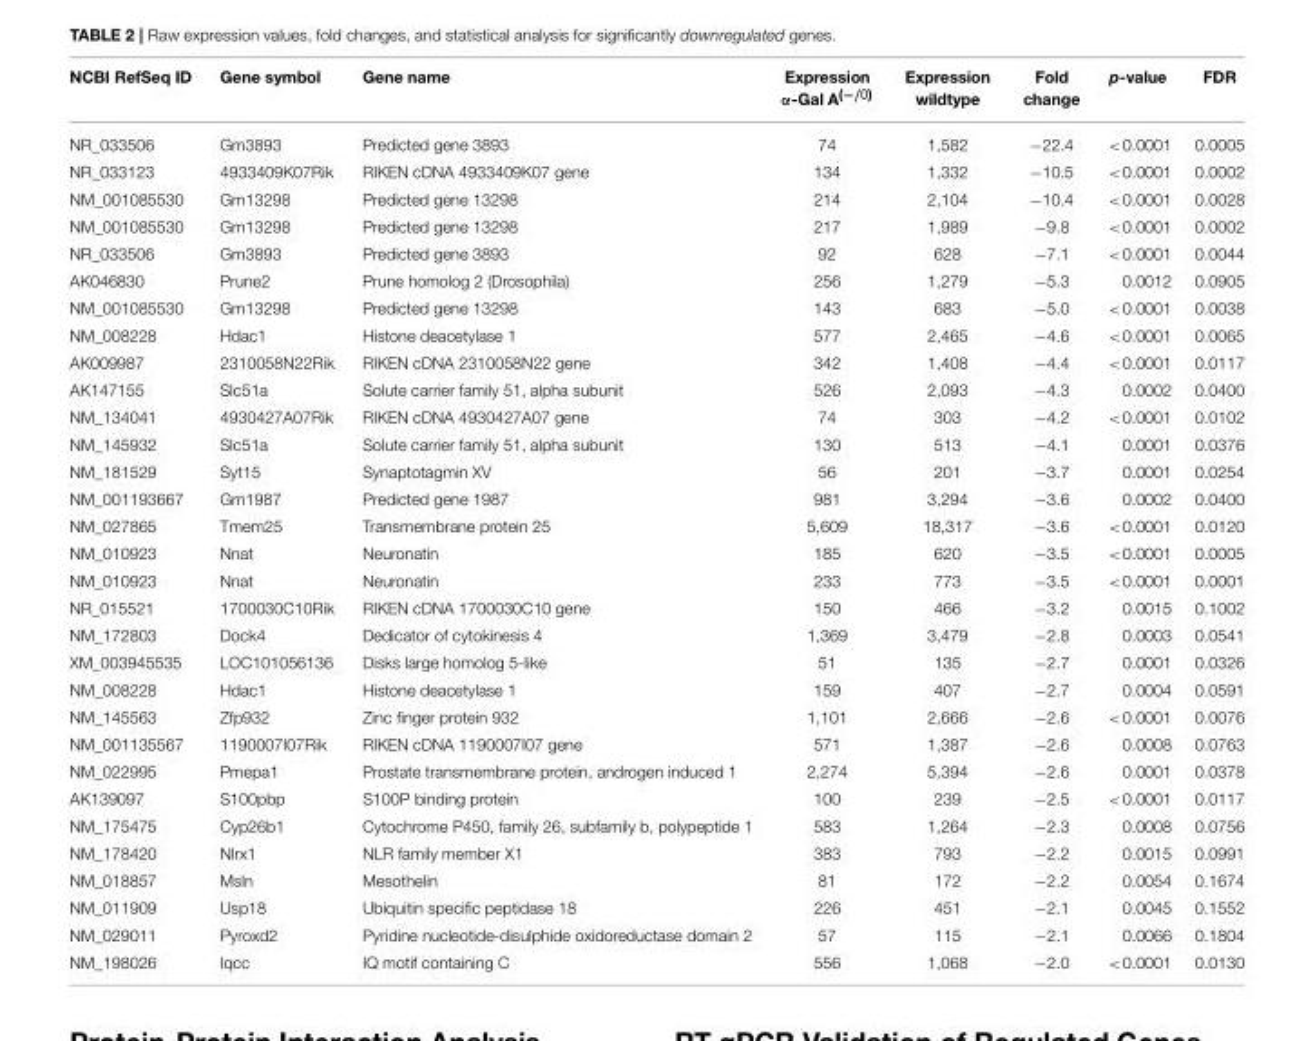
<table><thead><tr><td>NCBI RefSeq ID</td><td>Gene symbol</td><td>Gene name</td><td>Expression α-Gal A<sup>(−/0)</sup></td><td>Expression wildtype</td><td>Fold change</td><td>p-value</td><td>FDR</td></tr></thead><tbody><tr><td>NR_033506</td><td>Gm3893</td><td>Predicted gene 3893</td><td>74</td><td>1,582</td><td>−22.4</td><td>&lt;0.0001</td><td>0.0005</td></tr><tr><td>NR_033123</td><td>4933409K07Rik</td><td>RIKEN cDNA 4933409K07 gene</td><td>134</td><td>1,332</td><td>−10.5</td><td>&lt;0.0001</td><td>0.0002</td></tr><tr><td>NM_001085530</td><td>Gm13298</td><td>Predicted gene 13298</td><td>214</td><td>2,104</td><td>−10.4</td><td>&lt;0.0001</td><td>0.0028</td></tr><tr><td>NM_001085530</td><td>Gm13298</td><td>Predicted gene 13298</td><td>217</td><td>1,989</td><td>−9.8</td><td>&lt;0.0001</td><td>0.0002</td></tr><tr><td>NR_033506</td><td>Gm3893</td><td>Predicted gene 3893</td><td>92</td><td>628</td><td>−7.1</td><td>&lt;0.0001</td><td>0.0044</td></tr><tr><td>AK046830</td><td>Prune2</td><td>Prune homolog 2 (Drosophila)</td><td>256</td><td>1,279</td><td>−5.3</td><td>0.0012</td><td>0.0905</td></tr><tr><td>NM_001085530</td><td>Gm13298</td><td>Predicted gene 13298</td><td>143</td><td>683</td><td>−5.0</td><td>&lt;0.0001</td><td>0.0038</td></tr><tr><td>NM_008228</td><td>Hdac1</td><td>Histone deacetylase 1</td><td>577</td><td>2,465</td><td>−4.6</td><td>&lt;0.0001</td><td>0.0065</td></tr><tr><td>AK009987</td><td>2310058N22Rik</td><td>RIKEN cDNA 2310058N22 gene</td><td>342</td><td>1,408</td><td>−4.4</td><td>&lt;0.0001</td><td>0.0117</td></tr><tr><td>AK147155</td><td>Slc51a</td><td>Solute carrier family 51, alpha subunit</td><td>526</td><td>2,093</td><td>−4.3</td><td>0.0002</td><td>0.0400</td></tr><tr><td>NM_134041</td><td>4930427A07Rik</td><td>RIKEN cDNA 4930427A07 gene</td><td>74</td><td>303</td><td>−4.2</td><td>&lt;0.0001</td><td>0.0102</td></tr><tr><td>NM_145932</td><td>Slc51a</td><td>Solute carrier family 51, alpha subunit</td><td>130</td><td>513</td><td>−4.1</td><td>0.0001</td><td>0.0376</td></tr><tr><td>NM_181529</td><td>Syt15</td><td>Synaptotagmin XV</td><td>56</td><td>201</td><td>−3.7</td><td>0.0001</td><td>0.0254</td></tr><tr><td>NM_001193667</td><td>Gm1987</td><td>Predicted gene 1987</td><td>981</td><td>3,294</td><td>−3.6</td><td>0.0002</td><td>0.0400</td></tr><tr><td>NM_027865</td><td>Tmem25</td><td>Transmembrane protein 25</td><td>5,609</td><td>18,317</td><td>−3.6</td><td>&lt;0.0001</td><td>0.0120</td></tr><tr><td>NM_010923</td><td>Nnat</td><td>Neuronatin</td><td>185</td><td>620</td><td>−3.5</td><td>&lt;0.0001</td><td>0.0005</td></tr><tr><td>NM_010923</td><td>Nnat</td><td>Neuronatin</td><td>233</td><td>773</td><td>−3.5</td><td>&lt;0.0001</td><td>0.0001</td></tr><tr><td>NR_015521</td><td>1700030C10Rik</td><td>RIKEN cDNA 1700030C10 gene</td><td>150</td><td>466</td><td>−3.2</td><td>0.0015</td><td>0.1002</td></tr><tr><td>NM_172803</td><td>Dock4</td><td>Dedicator of cytokinesis 4</td><td>1,369</td><td>3,479</td><td>−2.8</td><td>0.0003</td><td>0.0541</td></tr><tr><td>XM_003945535</td><td>LOC101056136</td><td>Disks large homolog 5-like</td><td>51</td><td>135</td><td>−2.7</td><td>0.0001</td><td>0.0326</td></tr><tr><td>NM_008228</td><td>Hdac1</td><td>Histone deacetylase 1</td><td>159</td><td>407</td><td>−2.7</td><td>0.0004</td><td>0.0591</td></tr><tr><td>NM_145563</td><td>Zfp932</td><td>Zinc finger protein 932</td><td>1,101</td><td>2,666</td><td>−2.6</td><td>&lt;0.0001</td><td>0.0076</td></tr><tr><td>NM_001135567</td><td>1190007I07Rik</td><td>RIKEN cDNA 1190007I07 gene</td><td>571</td><td>1,387</td><td>−2.6</td><td>0.0008</td><td>0.0763</td></tr><tr><td>NM_022995</td><td>Pmepa1</td><td>Prostate transmembrane protein, androgen induced 1</td><td>2,274</td><td>5,394</td><td>−2.6</td><td>0.0001</td><td>0.0378</td></tr><tr><td>AK139097</td><td>S100pbp</td><td>S100P binding protein</td><td>100</td><td>239</td><td>−2.5</td><td>&lt;0.0001</td><td>0.0117</td></tr><tr><td>NM_175475</td><td>Cyp26b1</td><td>Cytochrome P450, family 26, subfamily b, polypeptide 1</td><td>583</td><td>1,264</td><td>−2.3</td><td>0.0008</td><td>0.0756</td></tr><tr><td>NM_178420</td><td>Nlrx1</td><td>NLR family member X1</td><td>383</td><td>793</td><td>−2.2</td><td>0.0015</td><td>0.0991</td></tr><tr><td>NM_018857</td><td>Msln</td><td>Mesothelin</td><td>81</td><td>172</td><td>−2.2</td><td>0.0054</td><td>0.1674</td></tr><tr><td>NM_011909</td><td>Usp18</td><td>Ubiquitin specific peptidase 18</td><td>226</td><td>451</td><td>−2.1</td><td>0.0045</td><td>0.1552</td></tr><tr><td>NM_029011</td><td>Pyroxd2</td><td>Pyridine nucleotide-disulphide oxidoreductase domain 2</td><td>57</td><td>115</td><td>−2.1</td><td>0.0066</td><td>0.1804</td></tr><tr><td>NM_198026</td><td>Iqcc</td><td>IQ motif containing C</td><td>556</td><td>1,068</td><td>−2.0</td><td>&lt;0.0001</td><td>0.0130</td></tr></tbody></table>